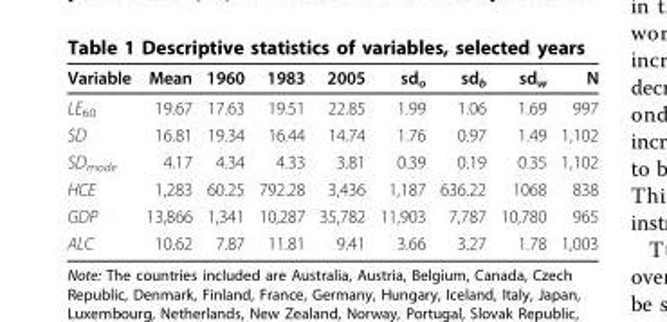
<table><thead><tr><td>Variable</td><td>Mean</td><td>1960</td><td>1983</td><td>2005</td><td>sd<sub>o</sub></td><td>sd<sub>b</sub></td><td>sd<sub>w</sub></td><td>N</td></tr></thead><tbody><tr><td>LE<sub>60</sub></td><td>19.67</td><td>17.63</td><td>19.51</td><td>22.85</td><td>1.99</td><td>1.06</td><td>1.69</td><td>997</td></tr><tr><td>SD</td><td>16.81</td><td>19.34</td><td>16.44</td><td>14.74</td><td>1.76</td><td>0.97</td><td>1.49</td><td>1,102</td></tr><tr><td>SD<sub>mode</sub></td><td>4.17</td><td>4.34</td><td>4.33</td><td>3.81</td><td>0.39</td><td>0.19</td><td>0.35</td><td>1,102</td></tr><tr><td>HCE</td><td>1,283</td><td>60.25</td><td>792.28</td><td>3,436</td><td>1,187</td><td>636.22</td><td>1068</td><td>838</td></tr><tr><td>GDP</td><td>13,866</td><td>1,341</td><td>10,287</td><td>35,782</td><td>11,903</td><td>7,787</td><td>10,780</td><td>965</td></tr><tr><td>ALC</td><td>10.62</td><td>7.87</td><td>11.81</td><td>9.41</td><td>3.66</td><td>3.27</td><td>1.78</td><td>1,003</td></tr></tbody></table>